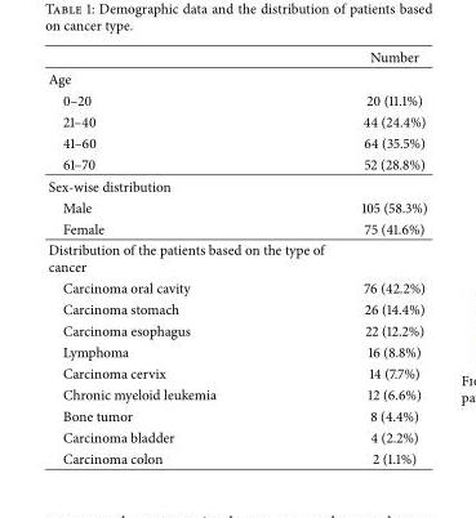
<table><thead><tr><td></td><td>Number</td></tr></thead><tbody><tr><td colspan="2">Age</td></tr><tr><td>0–20</td><td>20 (11.1%)</td></tr><tr><td>21–40</td><td>44 (24.4%)</td></tr><tr><td>41–60</td><td>64 (35.5%)</td></tr><tr><td>61–70</td><td>52 (28.8%)</td></tr><tr><td colspan="2">Sex-wise distribution</td></tr><tr><td>Male</td><td>105 (58.3%)</td></tr><tr><td>Female</td><td>75 (41.6%)</td></tr><tr><td colspan="2">Distribution of the patients based on the type of cancer</td></tr><tr><td>Carcinoma oral cavity</td><td>76 (42.2%)</td></tr><tr><td>Carcinoma stomach</td><td>26 (14.4%)</td></tr><tr><td>Carcinoma esophagus</td><td>22 (12.2%)</td></tr><tr><td>Lymphoma</td><td>16 (8.8%)</td></tr><tr><td>Carcinoma cervix</td><td>14 (7.7%)</td></tr><tr><td>Chronic myeloid leukemia</td><td>12 (6.6%)</td></tr><tr><td>Bone tumor</td><td>8 (4.4%)</td></tr><tr><td>Carcinoma bladder</td><td>4 (2.2%)</td></tr><tr><td>Carcinoma colon</td><td>2 (1.1%)</td></tr></tbody></table>